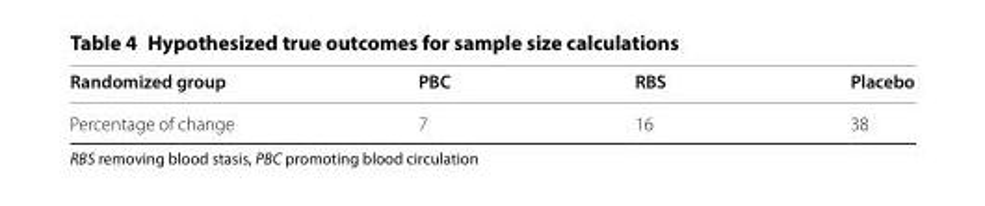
<table><thead><tr><td>Randomized group</td><td>PBC</td><td>RBS</td><td>Placebo</td></tr></thead><tbody><tr><td>Percentage of change</td><td>7</td><td>16</td><td>38</td></tr></tbody></table>